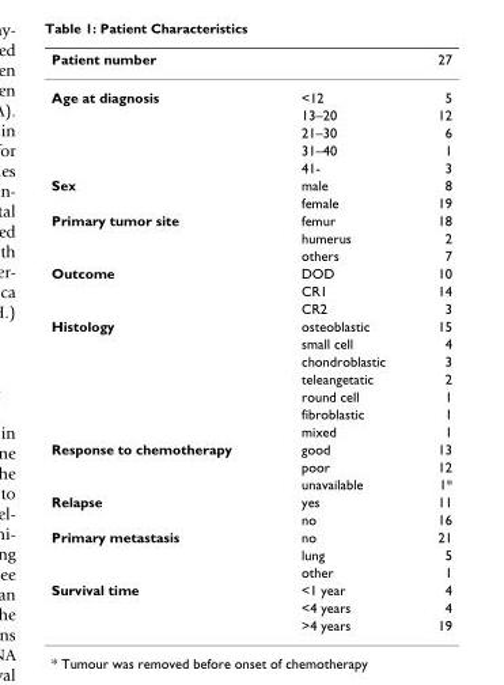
<table><thead><tr><td>Patient number</td><td></td><td>27</td></tr></thead><tbody><tr><td rowspan="5">Age at diagnosis</td><td>&lt;12</td><td>5</td></tr><tr><td>13–20</td><td>12</td></tr><tr><td>21–30</td><td>6</td></tr><tr><td>31–40</td><td>1</td></tr><tr><td>41-</td><td>3</td></tr><tr><td rowspan="2">Sex</td><td>male</td><td>8</td></tr><tr><td>female</td><td>19</td></tr><tr><td rowspan="3">Primary tumor site</td><td>femur</td><td>18</td></tr><tr><td>humerus</td><td>2</td></tr><tr><td>others</td><td>7</td></tr><tr><td rowspan="3">Outcome</td><td>DOD</td><td>10</td></tr><tr><td>CR1</td><td>14</td></tr><tr><td>CR2</td><td>3</td></tr><tr><td rowspan="7">Histology</td><td>osteoblastic</td><td>15</td></tr><tr><td>small cell</td><td>4</td></tr><tr><td>chondroblastic</td><td>3</td></tr><tr><td>teleangetatic</td><td>2</td></tr><tr><td>round cell</td><td>1</td></tr><tr><td>fibroblastic</td><td>1</td></tr><tr><td>mixed</td><td>1</td></tr><tr><td rowspan="3">Response to chemotherapy</td><td>good</td><td>13</td></tr><tr><td>poor</td><td>12</td></tr><tr><td>unavailable</td><td>1*</td></tr><tr><td rowspan="2">Relapse</td><td>yes</td><td>11</td></tr><tr><td>no</td><td>16</td></tr><tr><td rowspan="3">Primary metastasis</td><td>no</td><td>21</td></tr><tr><td>lung</td><td>5</td></tr><tr><td>other</td><td>1</td></tr><tr><td rowspan="3">Survival time</td><td>&lt;1 year</td><td>4</td></tr><tr><td>&lt;4 years</td><td>4</td></tr><tr><td>&gt;4 years</td><td>19</td></tr></tbody></table>